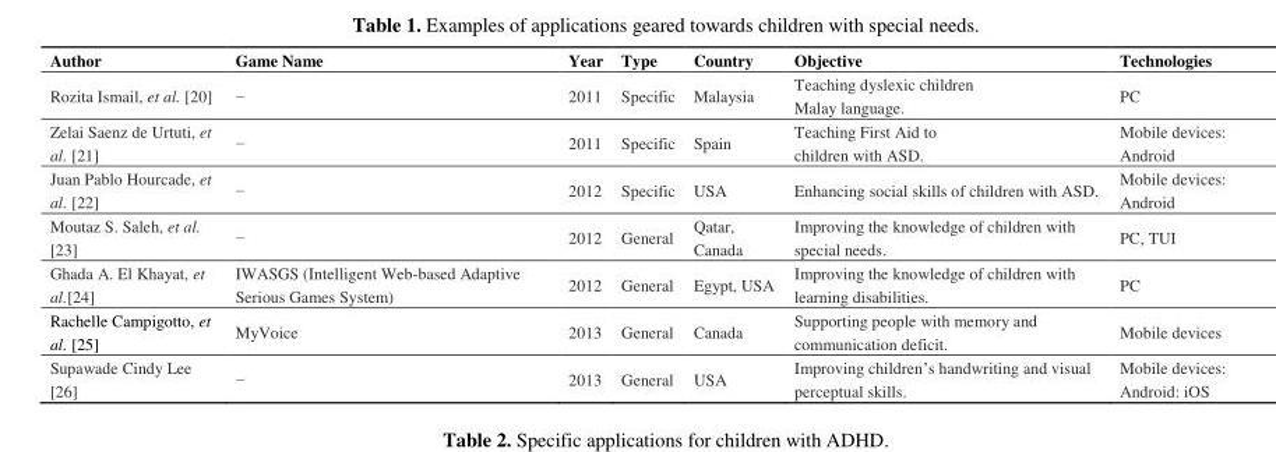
<table><thead><tr><td>Author</td><td>Game Name</td><td>Year</td><td>Type</td><td>Country</td><td>Objective</td><td>Technologies</td></tr></thead><tbody><tr><td>Rozita Ismail, et al. [20]</td><td>−</td><td>2011</td><td>Specific</td><td>Malaysia</td><td>Teaching dyslexic children Malay language.</td><td>PC</td></tr><tr><td>Zelai Saenz de Urtuti, et al. [21]</td><td>−</td><td>2011</td><td>Specific</td><td>Spain</td><td>Teaching First Aid to children with ASD.</td><td>Mobile devices: Android</td></tr><tr><td>Juan Pablo Hourcade, et al. [22]</td><td>−</td><td>2012</td><td>Specific</td><td>USA</td><td>Enhancing social skills of children with ASD.</td><td>Mobile devices: Android</td></tr><tr><td>Moutaz S. Saleh, et al. [23]</td><td>−</td><td>2012</td><td>General</td><td>Qatar, Canada</td><td>Improving the knowledge of children with special needs.</td><td>PC, TUI</td></tr><tr><td>Ghada A. El Khayat, et al.[24]</td><td>IWASGS (Intelligent Web-based Adaptive Serious Games System)</td><td>2012</td><td>General</td><td>Egypt, USA</td><td>Improving the knowledge of children with learning disabilities.</td><td>PC</td></tr><tr><td>Rachelle Campigotto, et al. [25]</td><td>MyVoice</td><td>2013</td><td>General</td><td>Canada</td><td>Supporting people with memory and communication deficit.</td><td>Mobile devices</td></tr><tr><td>Supawade Cindy Lee [26]</td><td>−</td><td>2013</td><td>General</td><td>USA</td><td>Improving children’s handwriting and visual perceptual skills.</td><td>Mobile devices: Android: iOS</td></tr></tbody></table>